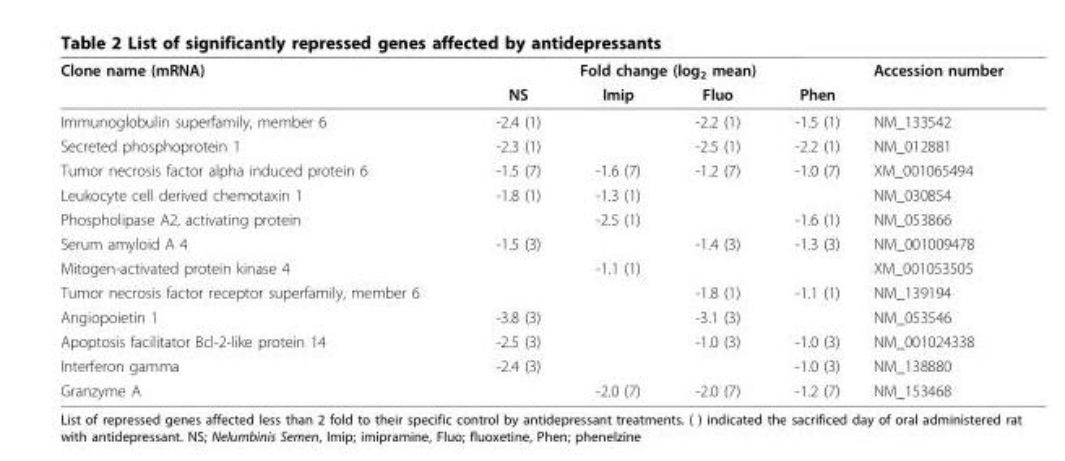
<table><thead><tr><td rowspan="2">Clone name (mRNA)</td><td colspan="4">Fold change (log<sub>2</sub> mean)</td><td rowspan="2">Accession number</td></tr><tr><td>NS</td><td>Imip</td><td>Fluo</td><td>Phen</td></tr></thead><tbody><tr><td>Immunoglobulin superfamily, member 6</td><td>-2.4 (1)</td><td></td><td>-2.2 (1)</td><td>-1.5 (1)</td><td>NM_133542</td></tr><tr><td>Secreted phosphoprotein 1</td><td>-2.3 (1)</td><td></td><td>-2.5 (1)</td><td>-2.2 (1)</td><td>NM_012881</td></tr><tr><td>Tumor necrosis factor alpha induced protein 6</td><td>-1.5 (7)</td><td>-1.6 (7)</td><td>-1.2 (7)</td><td>-1.0 (7)</td><td>XM_001065494</td></tr><tr><td>Leukocyte cell derived chemotaxin 1</td><td>-1.8 (1)</td><td>-1.3 (1)</td><td></td><td></td><td>NM_030854</td></tr><tr><td>Phospholipase A2, activating protein</td><td></td><td>-2.5 (1)</td><td></td><td>-1.6 (1)</td><td>NM_053866</td></tr><tr><td>Serum amyloid A 4</td><td>-1.5 (3)</td><td></td><td>-1.4 (3)</td><td>-1.3 (3)</td><td>NM_001009478</td></tr><tr><td>Mitogen-activated protein kinase 4</td><td></td><td>-1.1 (1)</td><td></td><td></td><td>XM_001053505</td></tr><tr><td>Tumor necrosis factor receptor superfamily, member 6</td><td></td><td></td><td>-1.8 (1)</td><td>-1.1 (1)</td><td>NM_139194</td></tr><tr><td>Angiopoietin 1</td><td>-3.8 (3)</td><td></td><td>-3.1 (3)</td><td></td><td>NM_053546</td></tr><tr><td>Apoptosis facilitator Bcl-2-like protein 14</td><td>-2.5 (3)</td><td></td><td>-1.0 (3)</td><td>-1.0 (3)</td><td>NM_001024338</td></tr><tr><td>Interferon gamma</td><td>-2.4 (3)</td><td></td><td></td><td>-1.0 (3)</td><td>NM_138880</td></tr><tr><td>Granzyme A</td><td></td><td>-2.0 (7)</td><td>-2.0 (7)</td><td>-1.2 (7)</td><td>NM_153468</td></tr></tbody></table>